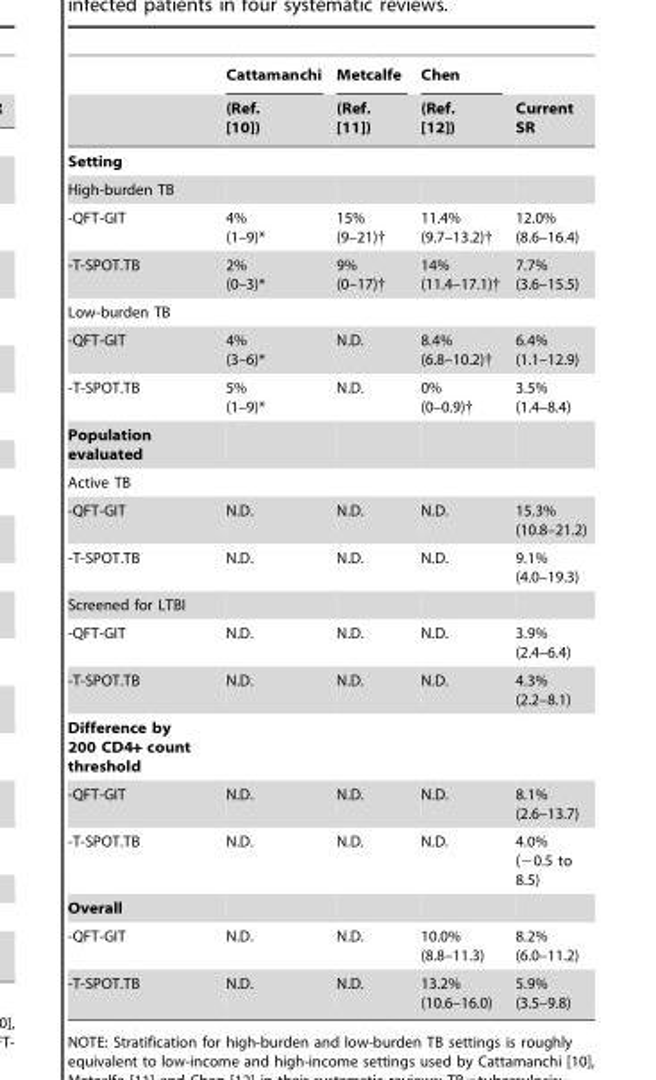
<table><thead><tr><td rowspan="2"></td><td rowspan="2">Cattamanchi (Ref. [10])</td><td rowspan="2">Metcalfe (Ref. [11])</td><td rowspan="2">Chen (Ref. [12])</td><td rowspan="2">Current SR</td></tr><tr></tr></thead><tbody><tr><td colspan="5">Setting</td></tr><tr><td colspan="5">High-burden TB</td></tr><tr><td>-QFT-GIT</td><td>4% (1–9)*</td><td>15% (9–21)†</td><td>11.4% (9.7–13.2)†</td><td>12.0% (8.6–16.4)</td></tr><tr><td>-T-SPOT.TB</td><td>2% (0–3)*</td><td>9% (0–17)†</td><td>14% (11.4–17.1)†</td><td>7.7% (3.6–15.5)</td></tr><tr><td colspan="5">Low-burden TB</td></tr><tr><td>-QFT-GIT</td><td>4% (3–6)*</td><td>N.D.</td><td>8.4% (6.8–10.2)†</td><td>6.4% (1.1–12.9)</td></tr><tr><td>-T-SPOT.TB</td><td>5% (1–9)*</td><td>N.D.</td><td>0% (0–0.9)†</td><td>3.5% (1.4–8.4)</td></tr><tr><td colspan="5">Population evaluated</td></tr><tr><td colspan="5">Active TB</td></tr><tr><td>-QFT-GIT</td><td>N.D.</td><td>N.D.</td><td>N.D.</td><td>15.3% (10.8–21.2)</td></tr><tr><td>-T-SPOT.TB</td><td>N.D.</td><td>N.D.</td><td>N.D.</td><td>9.1% (4.0–19.3)</td></tr><tr><td colspan="5">Screened for LTBI</td></tr><tr><td>-QFT-GIT</td><td>N.D.</td><td>N.D.</td><td>N.D.</td><td>3.9% (2.4–6.4)</td></tr><tr><td>-T-SPOT.TB</td><td>N.D.</td><td>N.D.</td><td>N.D.</td><td>4.3% (2.2–8.1)</td></tr><tr><td colspan="5">Difference by 200 CD4+ count threshold</td></tr><tr><td>-QFT-GIT</td><td>N.D.</td><td>N.D.</td><td>N.D.</td><td>8.1% (2.6–13.7)</td></tr><tr><td>-T-SPOT.TB</td><td>N.D.</td><td>N.D.</td><td>N.D.</td><td>4.0% (−0.5 to 8.5)</td></tr><tr><td colspan="5">Overall</td></tr><tr><td>-QFT-GIT</td><td>N.D.</td><td>N.D.</td><td>10.0% (8.8–11.3)</td><td>8.2% (6.0–11.2)</td></tr><tr><td>-T-SPOT.TB</td><td>N.D.</td><td>N.D.</td><td>13.2% (10.6–16.0)</td><td>5.9% (3.5–9.8)</td></tr></tbody></table>